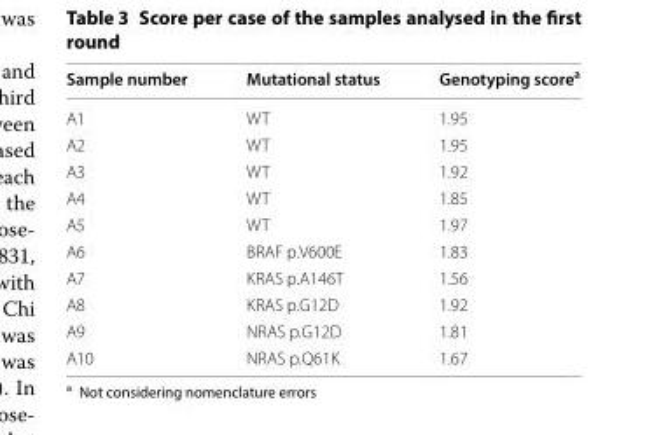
<table><thead><tr><td>Sample number</td><td>Mutational status</td><td>Genotyping score<sup>a</sup></td></tr></thead><tbody><tr><td>A1</td><td>WT</td><td>1.95</td></tr><tr><td>A2</td><td>WT</td><td>1.95</td></tr><tr><td>A3</td><td>WT</td><td>1.92</td></tr><tr><td>A4</td><td>WT</td><td>1.85</td></tr><tr><td>A5</td><td>WT</td><td>1.97</td></tr><tr><td>A6</td><td>BRAF p.V600E</td><td>1.83</td></tr><tr><td>A7</td><td>KRAS p.A146T</td><td>1.56</td></tr><tr><td>A8</td><td>KRAS p.G12D</td><td>1.92</td></tr><tr><td>A9</td><td>NRAS p.G12D</td><td>1.81</td></tr><tr><td>A10</td><td>NRAS p.Q61K</td><td>1.67</td></tr></tbody></table>